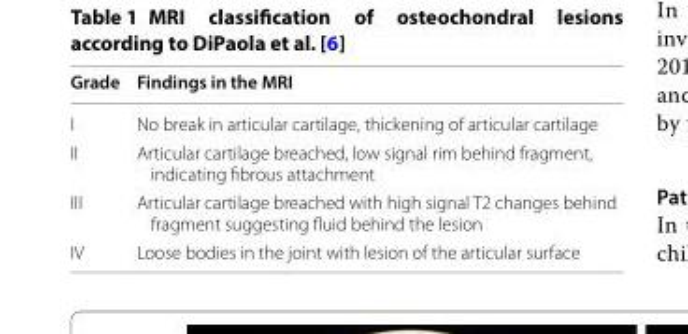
<table><thead><tr><td>Grade</td><td>Findings in the MRI</td></tr></thead><tbody><tr><td>I</td><td>No break in articular cartilage, thickening of articular cartilage</td></tr><tr><td>II</td><td>Articular cartilage breached, low signal rim behind fragment, indicating fibrous attachment</td></tr><tr><td>III</td><td>Articular cartilage breached with high signal T2 changes behind fragment suggesting fluid behind the lesion</td></tr><tr><td>IV</td><td>Loose bodies in the joint with lesion of the articular surface</td></tr></tbody></table>